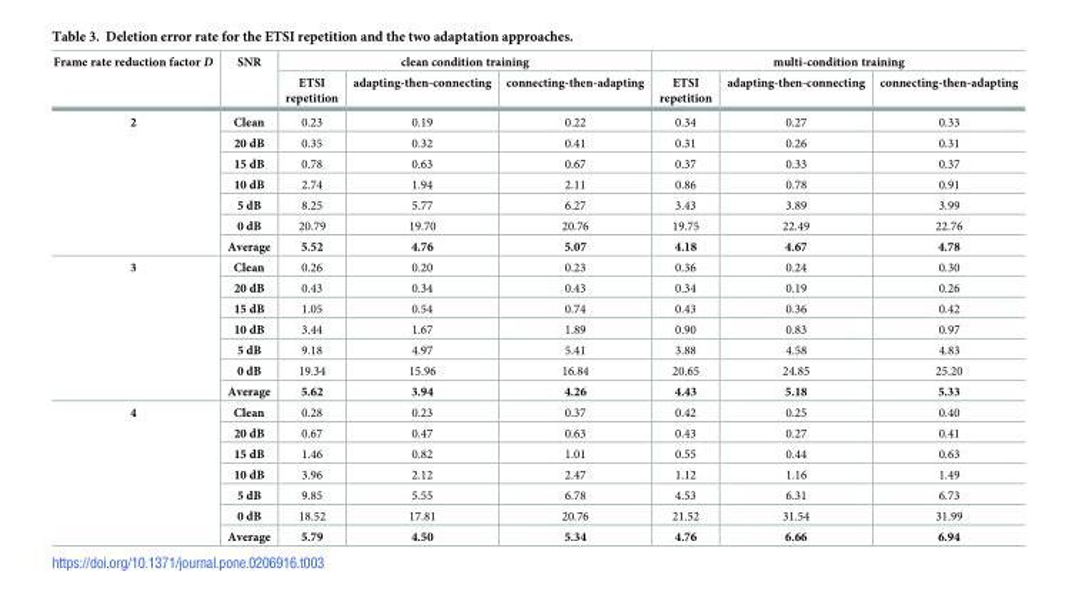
<table><thead><tr><td rowspan="2">Frame rate reduction factor D</td><td rowspan="2">SNR</td><td colspan="3">clean condition training</td><td colspan="3">multi-condition training</td></tr><tr><td>ETSI repetition</td><td>adapting-then-connecting</td><td>connecting-then-adapting</td><td>ETSI repetition</td><td>adapting-then-connecting</td><td>connecting-then-adapting</td></tr></thead><tbody><tr><td rowspan="7">2</td><td>Clean</td><td>0.23</td><td>0.19</td><td>0.22</td><td>0.34</td><td>0.27</td><td>0.33</td></tr><tr><td>20 dB</td><td>0.35</td><td>0.32</td><td>0.41</td><td>0.31</td><td>0.26</td><td>0.31</td></tr><tr><td>15 dB</td><td>0.78</td><td>0.63</td><td>0.67</td><td>0.37</td><td>0.33</td><td>0.37</td></tr><tr><td>10 dB</td><td>2.74</td><td>1.94</td><td>2.11</td><td>0.86</td><td>0.78</td><td>0.91</td></tr><tr><td>5 dB</td><td>8.25</td><td>5.77</td><td>6.27</td><td>3.43</td><td>3.89</td><td>3.99</td></tr><tr><td>0 dB</td><td>20.79</td><td>19.70</td><td>20.76</td><td>19.75</td><td>22.49</td><td>22.76</td></tr><tr><td>Average</td><td>5.52</td><td>4.76</td><td>5.07</td><td>4.18</td><td>4.67</td><td>4.78</td></tr><tr><td rowspan="7">3</td><td>Clean</td><td>0.26</td><td>0.20</td><td>0.23</td><td>0.36</td><td>0.24</td><td>0.30</td></tr><tr><td>20 dB</td><td>0.43</td><td>0.34</td><td>0.43</td><td>0.34</td><td>0.19</td><td>0.26</td></tr><tr><td>15 dB</td><td>1.05</td><td>0.54</td><td>0.74</td><td>0.43</td><td>0.36</td><td>0.42</td></tr><tr><td>10 dB</td><td>3.44</td><td>1.67</td><td>1.89</td><td>0.90</td><td>0.83</td><td>0.97</td></tr><tr><td>5 dB</td><td>9.18</td><td>4.97</td><td>5.41</td><td>3.88</td><td>4.58</td><td>4.83</td></tr><tr><td>0 dB</td><td>19.34</td><td>15.96</td><td>16.84</td><td>20.65</td><td>24.85</td><td>25.20</td></tr><tr><td>Average</td><td>5.62</td><td>3.94</td><td>4.26</td><td>4.43</td><td>5.18</td><td>5.33</td></tr><tr><td rowspan="7">4</td><td>Clean</td><td>0.28</td><td>0.23</td><td>0.37</td><td>0.42</td><td>0.25</td><td>0.40</td></tr><tr><td>20 dB</td><td>0.67</td><td>0.47</td><td>0.63</td><td>0.43</td><td>0.27</td><td>0.41</td></tr><tr><td>15 dB</td><td>1.46</td><td>0.82</td><td>1.01</td><td>0.55</td><td>0.44</td><td>0.63</td></tr><tr><td>10 dB</td><td>3.96</td><td>2.12</td><td>2.47</td><td>1.12</td><td>1.16</td><td>1.49</td></tr><tr><td>5 dB</td><td>9.85</td><td>5.55</td><td>6.78</td><td>4.53</td><td>6.31</td><td>6.73</td></tr><tr><td>0 dB</td><td>18.52</td><td>17.81</td><td>20.76</td><td>21.52</td><td>31.54</td><td>31.99</td></tr><tr><td>Average</td><td>5.79</td><td>4.50</td><td>5.34</td><td>4.76</td><td>6.66</td><td>6.94</td></tr></tbody></table>